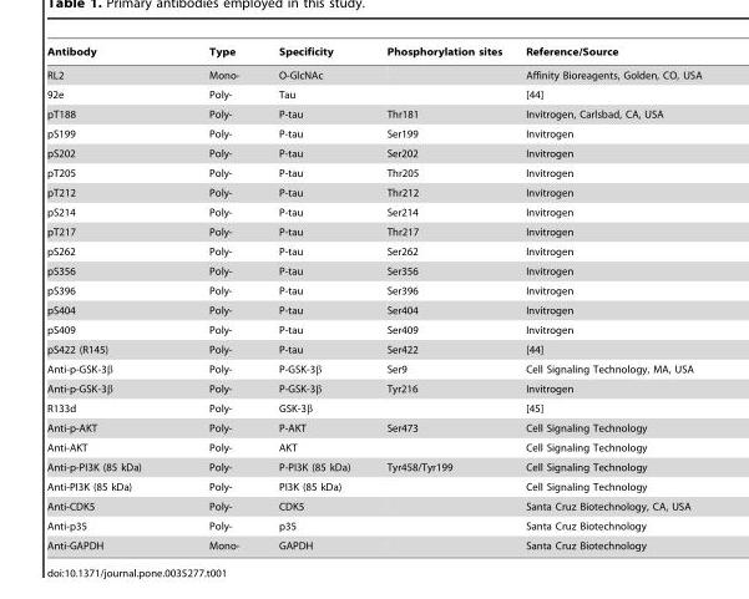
<table><thead><tr><td>Antibody</td><td>Type</td><td>Specificity</td><td>Phosphorylation sites</td><td>Reference/Source</td></tr></thead><tbody><tr><td>RL2</td><td>Mono-</td><td>O-GlcNAc</td><td></td><td>Affinity Bioreagents, Golden, CO, USA</td></tr><tr><td>92e</td><td>Poly-</td><td>Tau</td><td></td><td>[44]</td></tr><tr><td>pT188</td><td>Poly-</td><td>P-tau</td><td>Thr181</td><td>Invitrogen, Carlsbad, CA, USA</td></tr><tr><td>pS199</td><td>Poly-</td><td>P-tau</td><td>Ser199</td><td>Invitrogen</td></tr><tr><td>pS202</td><td>Poly-</td><td>P-tau</td><td>Ser202</td><td>Invitrogen</td></tr><tr><td>pT205</td><td>Poly-</td><td>P-tau</td><td>Thr205</td><td>Invitrogen</td></tr><tr><td>pT212</td><td>Poly-</td><td>P-tau</td><td>Thr212</td><td>Invitrogen</td></tr><tr><td>pS214</td><td>Poly-</td><td>P-tau</td><td>Ser214</td><td>Invitrogen</td></tr><tr><td>pT217</td><td>Poly-</td><td>P-tau</td><td>Thr217</td><td>Invitrogen</td></tr><tr><td>pS262</td><td>Poly-</td><td>P-tau</td><td>Ser262</td><td>Invitrogen</td></tr><tr><td>pS356</td><td>Poly-</td><td>P-tau</td><td>Ser356</td><td>Invitrogen</td></tr><tr><td>pS396</td><td>Poly-</td><td>P-tau</td><td>Ser396</td><td>Invitrogen</td></tr><tr><td>pS404</td><td>Poly-</td><td>P-tau</td><td>Ser404</td><td>Invitrogen</td></tr><tr><td>pS409</td><td>Poly-</td><td>P-tau</td><td>Ser409</td><td>Invitrogen</td></tr><tr><td>pS422 (R145)</td><td>Poly-</td><td>P-tau</td><td>Ser422</td><td>[44]</td></tr><tr><td>Anti-p-GSK-3β</td><td>Poly-</td><td>P-GSK-3β</td><td>Ser9</td><td>Cell Signaling Technology, MA, USA</td></tr><tr><td>Anti-p-GSK-3β</td><td>Poly-</td><td>P-GSK-3β</td><td>Tyr216</td><td>Invitrogen</td></tr><tr><td>R133d</td><td>Poly-</td><td>GSK-3β</td><td></td><td>[45]</td></tr><tr><td>Anti-p-AKT</td><td>Poly-</td><td>P-AKT</td><td>Ser473</td><td>Cell Signaling Technology</td></tr><tr><td>Anti-AKT</td><td>Poly-</td><td>AKT</td><td></td><td>Cell Signaling Technology</td></tr><tr><td>Anti-p-PI3K (85 kDa)</td><td>Poly-</td><td>P-PI3K (85 kDa)</td><td>Tyr458/Tyr199</td><td>Cell Signaling Technology</td></tr><tr><td>Anti-PI3K (85 kDa)</td><td>Poly-</td><td>PI3K (85 kDa)</td><td></td><td>Cell Signaling Technology</td></tr><tr><td>Anti-CDK5</td><td>Poly-</td><td>CDK5</td><td></td><td>Santa Cruz Biotechnology, CA, USA</td></tr><tr><td>Anti-p35</td><td>Poly-</td><td>p35</td><td></td><td>Santa Cruz Biotechnology</td></tr><tr><td>Anti-GAPDH</td><td>Mono-</td><td>GAPDH</td><td></td><td>Santa Cruz Biotechnology</td></tr></tbody></table>